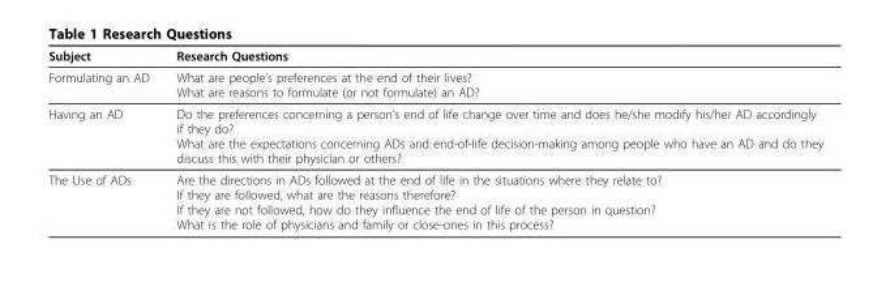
<table><thead><tr><td>Subject</td><td>Research Questions</td></tr></thead><tbody><tr><td>Formulating an AD</td><td>What are people’s preferences at the end of their lives? What are reasons to formulate (or not formulate) an AD?</td></tr><tr><td>Having an AD</td><td>Do the preferences concerning a person’s end of life change over time and does he/she modify his/her AD accordingly if they do? What are the expectations concerning ADs and end-of-life decision-making among people who have an AD and do they discuss this with their physician or others?</td></tr><tr><td>The Use of ADs</td><td>Are the directions in ADs followed at the end of life in the situations where they relate to? If they are followed, what are the reasons therefore? If they are not followed, how do they influence the end of life of the person in question? What is the role of physicians and family or close-ones in this process?</td></tr></tbody></table>